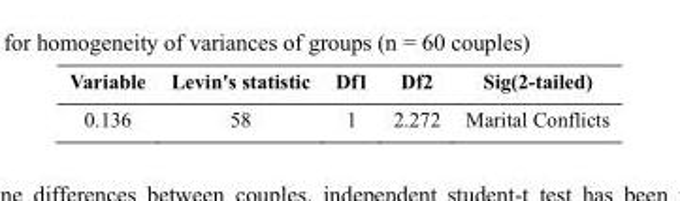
<table><thead><tr><td>Variable</td><td>Levin&#x27;s statistic</td><td>Df1</td><td>Df2</td><td>Sig(2-tailed)</td></tr></thead><tbody><tr><td>0.136</td><td>58</td><td>1</td><td>2.272</td><td>Marital Conflicts</td></tr></tbody></table>